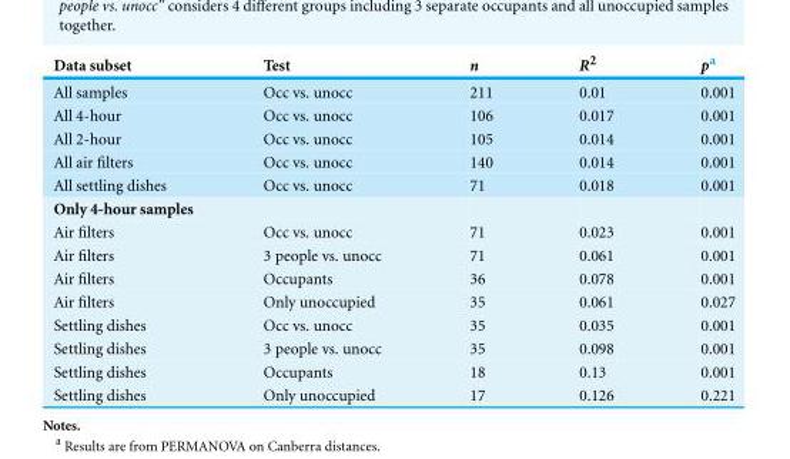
<table><thead><tr><td>Data subset</td><td>Test</td><td>n</td><td>R<sup>2</sup></td><td>p<sup>a</sup></td></tr></thead><tbody><tr><td>All samples</td><td>Occ vs. unocc</td><td>211</td><td>0.01</td><td>0.001</td></tr><tr><td>All 4-hour</td><td>Occ vs. unocc</td><td>106</td><td>0.017</td><td>0.001</td></tr><tr><td>All 2-hour</td><td>Occ vs. unocc</td><td>105</td><td>0.014</td><td>0.001</td></tr><tr><td>All air filters</td><td>Occ vs. unocc</td><td>140</td><td>0.014</td><td>0.001</td></tr><tr><td>All settling dishes</td><td>Occ vs. unocc</td><td>71</td><td>0.018</td><td>0.001</td></tr><tr><td colspan="5">Only 4-hour samples</td></tr><tr><td>Air filters</td><td>Occ vs. unocc</td><td>71</td><td>0.023</td><td>0.001</td></tr><tr><td>Air filters</td><td>3 people vs. unocc</td><td>71</td><td>0.061</td><td>0.001</td></tr><tr><td>Air filters</td><td>Occupants</td><td>36</td><td>0.078</td><td>0.001</td></tr><tr><td>Air filters</td><td>Only unoccupied</td><td>35</td><td>0.061</td><td>0.027</td></tr><tr><td>Settling dishes</td><td>Occ vs. unocc</td><td>35</td><td>0.035</td><td>0.001</td></tr><tr><td>Settling dishes</td><td>3 people vs. unocc</td><td>35</td><td>0.098</td><td>0.001</td></tr><tr><td>Settling dishes</td><td>Occupants</td><td>18</td><td>0.13</td><td>0.001</td></tr><tr><td>Settling dishes</td><td>Only unoccupied</td><td>17</td><td>0.126</td><td>0.221</td></tr></tbody></table>